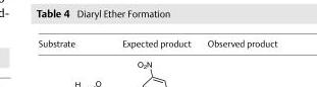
<table><thead><tr><td>Substrate</td><td>Expected product</td><td>Observed product</td></tr></thead><tbody></tbody></table>